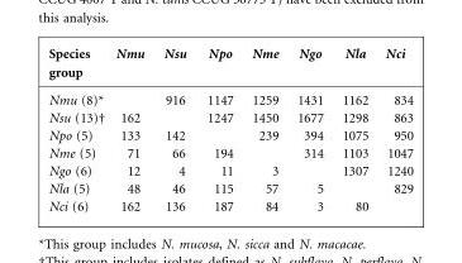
<table><thead><tr><td>Species group</td><td>Nmu</td><td>Nsu</td><td>Npo</td><td>Nme</td><td>Ngo</td><td>Nla</td><td>Nci</td></tr></thead><tbody><tr><td>Nmu (8)*</td><td></td><td>916</td><td>1147</td><td>1259</td><td>1431</td><td>1162</td><td>834</td></tr><tr><td>Nsu (13)†</td><td>162</td><td></td><td>1247</td><td>1450</td><td>1677</td><td>1298</td><td>863</td></tr><tr><td>Npo (5)</td><td>133</td><td>142</td><td></td><td>239</td><td>394</td><td>1075</td><td>950</td></tr><tr><td>Nme (5)</td><td>71</td><td>66</td><td>194</td><td></td><td>314</td><td>1103</td><td>1047</td></tr><tr><td>Ngo (6)</td><td>12</td><td>4</td><td>11</td><td>3</td><td></td><td>1307</td><td>1240</td></tr><tr><td>Nla (5)</td><td>48</td><td>46</td><td>115</td><td>57</td><td>5</td><td></td><td>829</td></tr><tr><td>Nci (6)</td><td>162</td><td>136</td><td>187</td><td>84</td><td>3</td><td>80</td><td></td></tr></tbody></table>